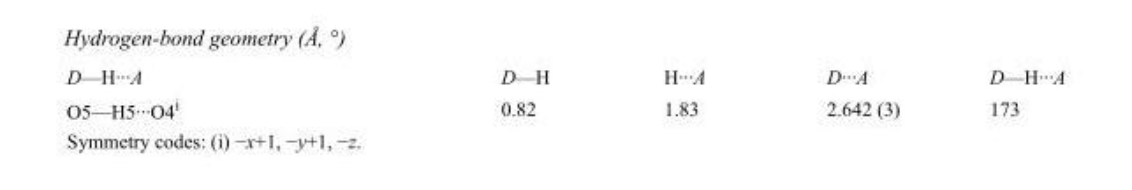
<table><tbody><tr><td>D—H···A</td><td>D—H</td><td>H···A</td><td>D···A</td><td>D—H···A</td></tr><tr><td>O5—H5···O4<sup>i</sup></td><td>0.82</td><td>1.83</td><td>2.642 (3)</td><td>173</td></tr></tbody></table>